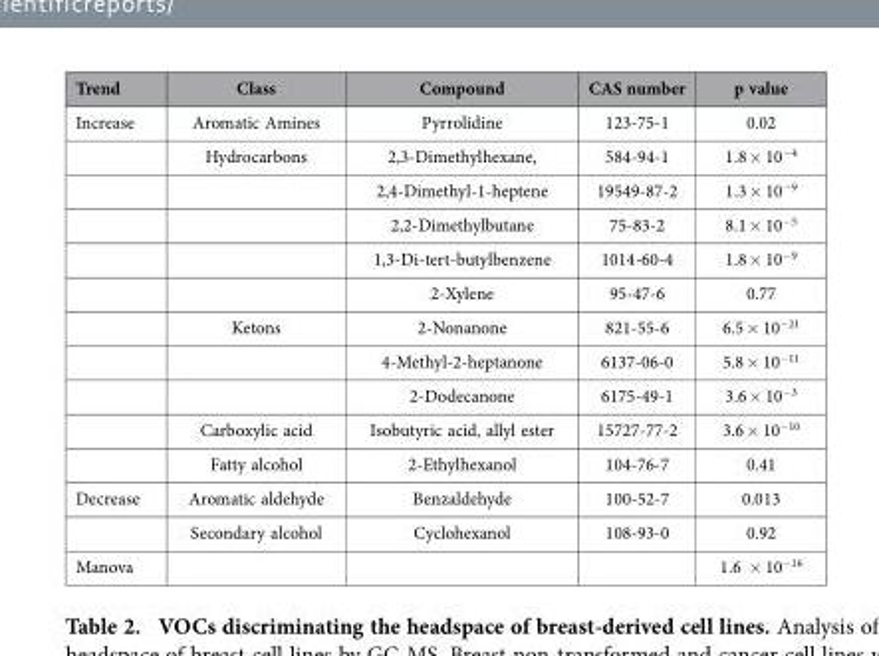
<table><thead><tr><td>Trend</td><td>Class</td><td>Compound</td><td>CAS number</td><td>p value</td></tr></thead><tbody><tr><td rowspan="11">Increase</td><td>Aromatic Amines</td><td>Pyrrolidine</td><td>123-75-1</td><td>0.02</td></tr><tr><td>Hydrocarbons</td><td>2,3-Dimethylhexane,</td><td>584-94-1</td><td>1.8 × 10<sup>−4</sup></td></tr><tr><td></td><td>2,4-Dimethyl-1-heptene</td><td>19549-87-2</td><td>1.3 × 10<sup>−9</sup></td></tr><tr><td></td><td>2,2-Dimethylbutane</td><td>75-83-2</td><td>8.1 × 10<sup>−5</sup></td></tr><tr><td></td><td>1,3-Di-tert-butylbenzene</td><td>1014-60-4</td><td>1.8 × 10<sup>−9</sup></td></tr><tr><td></td><td>2-Xylene</td><td>95-47-6</td><td>0.77</td></tr><tr><td>Ketons</td><td>2-Nonanone</td><td>821-55-6</td><td>6.5 × 10<sup>−21</sup></td></tr><tr><td></td><td>4-Methyl-2-heptanone</td><td>6137-06-0</td><td>5.8 × 10<sup>−11</sup></td></tr><tr><td></td><td>2-Dodecanone</td><td>6175-49-1</td><td>3.6 × 10<sup>−3</sup></td></tr><tr><td>Carboxylic acid</td><td>Isobutyric acid, allyl ester</td><td>15727-77-2</td><td>3.6 × 10<sup>−10</sup></td></tr><tr><td>Fatty alcohol</td><td>2-Ethylhexanol</td><td>104-76-7</td><td>0.41</td></tr><tr><td rowspan="2">Decrease</td><td>Aromatic aldehyde</td><td>Benzaldehyde</td><td>100-52-7</td><td>0.013</td></tr><tr><td>Secondary alcohol</td><td>Cyclohexanol</td><td>108-93-0</td><td>0.92</td></tr><tr><td>Manova</td><td></td><td></td><td></td><td>1.6 × 10<sup>−16</sup></td></tr></tbody></table>